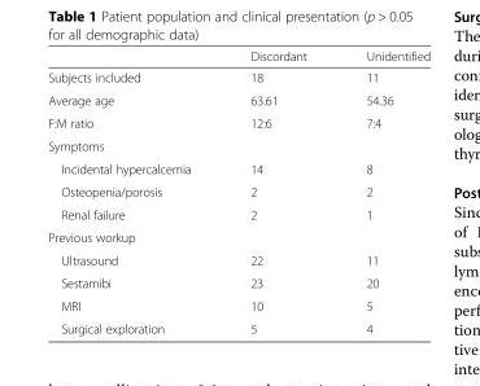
<table><thead><tr><td></td><td>Discordant</td><td>Unidentified</td></tr></thead><tbody><tr><td>Subjects included</td><td>18</td><td>11</td></tr><tr><td>Average age</td><td>63.61</td><td>54.36</td></tr><tr><td>F:M ratio</td><td>12:6</td><td>7:4</td></tr><tr><td colspan="3">Symptoms</td></tr><tr><td>Incidental hypercalcemia</td><td>14</td><td>8</td></tr><tr><td>Osteopenia/porosis</td><td>2</td><td>2</td></tr><tr><td>Renal failure</td><td>2</td><td>1</td></tr><tr><td colspan="3">Previous workup</td></tr><tr><td>Ultrasound</td><td>22</td><td>11</td></tr><tr><td>Sestamibi</td><td>23</td><td>20</td></tr><tr><td>MRI</td><td>10</td><td>5</td></tr><tr><td>Surgical exploration</td><td>5</td><td>4</td></tr></tbody></table>